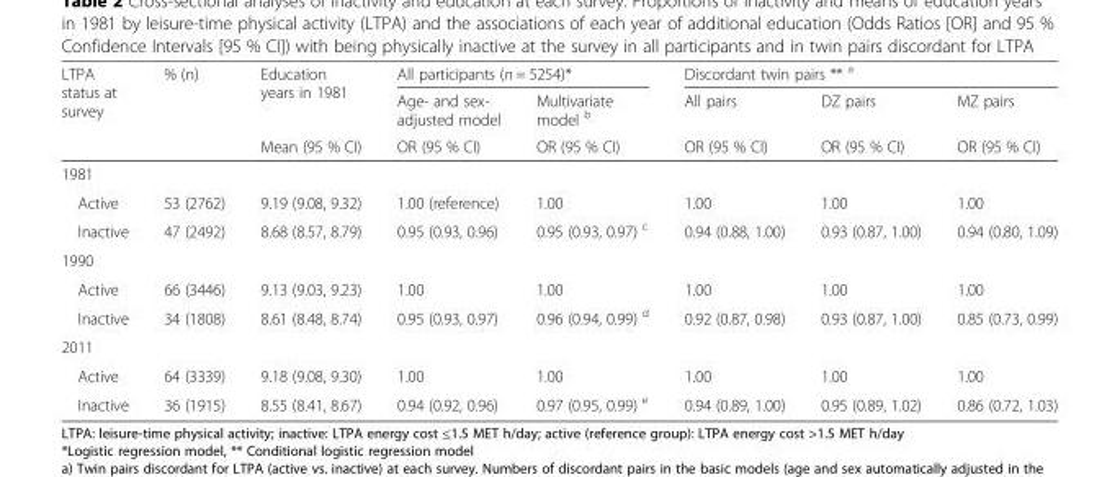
<table><thead><tr><td rowspan="3">LTPA status at survey</td><td rowspan="3">% (n)</td><td rowspan="3">Education years in 1981 Mean (95 % CI)</td><td colspan="2">All participants (n = 5254)*</td><td colspan="3">Discordant twin pairs ** <sup>a</sup></td></tr><tr><td rowspan="2">Age- and sex- adjusted model OR (95 % CI)</td><td rowspan="2">Multivariate model <sup>b</sup> OR (95 % CI)</td><td rowspan="2">All pairs OR (95 % CI)</td><td rowspan="2">DZ pairs OR (95 % CI)</td><td rowspan="2">MZ pairs OR (95 % CI)</td></tr><tr></tr></thead><tbody><tr><td colspan="8">1981</td></tr><tr><td>Active</td><td>53 (2762)</td><td>9.19 (9.08, 9.32)</td><td>1.00 (reference)</td><td>1.00</td><td>1.00</td><td>1.00</td><td>1.00</td></tr><tr><td>Inactive</td><td>47 (2492)</td><td>8.68 (8.57, 8.79)</td><td>0.95 (0.93, 0.96)</td><td>0.95 (0.93, 0.97) <sup>c</sup></td><td>0.94 (0.88, 1.00)</td><td>0.93 (0.87, 1.00)</td><td>0.94 (0.80, 1.09)</td></tr><tr><td colspan="8">1990</td></tr><tr><td>Active</td><td>66 (3446)</td><td>9.13 (9.03, 9.23)</td><td>1.00</td><td>1.00</td><td>1.00</td><td>1.00</td><td>1.00</td></tr><tr><td>Inactive</td><td>34 (1808)</td><td>8.61 (8.48, 8.74)</td><td>0.95 (0.93, 0.97)</td><td>0.96 (0.94, 0.99) <sup>d</sup></td><td>0.92 (0.87, 0.98)</td><td>0.93 (0.87, 1.00)</td><td>0.85 (0.73, 0.99)</td></tr><tr><td colspan="8">2011</td></tr><tr><td>Active</td><td>64 (3339)</td><td>9.18 (9.08, 9.30)</td><td>1.00</td><td>1.00</td><td>1.00</td><td>1.00</td><td>1.00</td></tr><tr><td>Inactive</td><td>36 (1915)</td><td>8.55 (8.41, 8.67)</td><td>0.94 (0.92, 0.96)</td><td>0.97 (0.95, 0.99) <sup>e</sup></td><td>0.94 (0.89, 1.00)</td><td>0.95 (0.89, 1.02)</td><td>0.86 (0.72, 1.03)</td></tr></tbody></table>